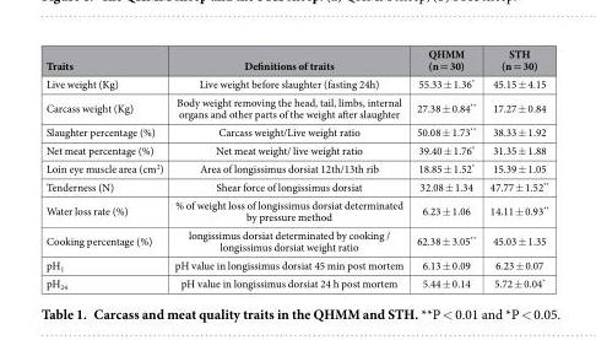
<table><thead><tr><td>Traits</td><td>Definitions of traits</td><td>QHMM (n = 30)</td><td>STH (n = 30)</td></tr></thead><tbody><tr><td>Live weight (Kg)</td><td>Live weight before slaughter (fasting 24h)</td><td>55.33 ± 1.36*</td><td>45.15 ± 4.15</td></tr><tr><td>Carcass weight (Kg)</td><td>Body weight removing the head, tail, limbs, internal organs and other parts of the weight after slaughter</td><td>27.38 ± 0.84**</td><td>17.27 ± 0.84</td></tr><tr><td>Slaughter percentage (%)</td><td>Carcass weight/Live weight ratio</td><td>50.08 ± 1.73**</td><td>38.33 ± 1.92</td></tr><tr><td>Net meat percentage (%)</td><td>Net meat weight/ live weight ratio</td><td>39.40 ± 1.76*</td><td>31.35 ± 1.88</td></tr><tr><td>Loin eye muscle area (cm<sup>2</sup>)</td><td>Area of longissimus dorsiat 12th/13th rib</td><td>18.85 ± 1.52*</td><td>15.39 ± 1.05</td></tr><tr><td>Tenderness (N)</td><td>Shear force of longissimus dorsiat</td><td>32.08 ± 1.34</td><td>47.77 ± 1.52**</td></tr><tr><td>Water loss rate (%)</td><td>% of weight loss of longissimus dorsiat determinated by pressure method</td><td>6.23 ± 1.06</td><td>14.11 ± 0.93**</td></tr><tr><td>Cooking percentage (%)</td><td>longissimus dorsiat determinated by cooking / longissimus dorsiat weight ratio</td><td>62.38 ± 3.05**</td><td>45.03 ± 1.35</td></tr><tr><td>pH<sub>1</sub></td><td>pH value in longissimus dorsiat 45 min post mortem</td><td>6.13 ± 0.09</td><td>6.23 ± 0.07</td></tr><tr><td>pH<sub>24</sub></td><td>pH value in longissimus dorsiat 24 h post mortem</td><td>5.44 ± 0.14</td><td>5.72 ± 0.04*</td></tr></tbody></table>